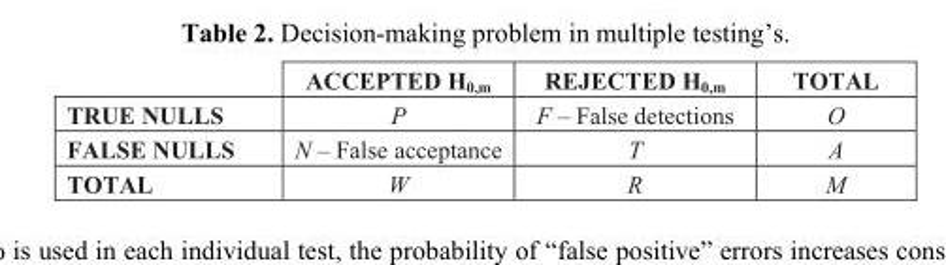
<table><thead><tr><td></td><td>ACCEPTED H<sub>0,m</sub></td><td>REJECTED H<sub>0,m</sub></td><td>TOTAL</td></tr></thead><tbody><tr><td>TRUE NULLS</td><td>P</td><td>F – False detections</td><td>O</td></tr><tr><td>FALSE NULLS</td><td>N – False acceptance</td><td>T</td><td>A</td></tr><tr><td>TOTAL</td><td>W</td><td>R</td><td>M</td></tr></tbody></table>